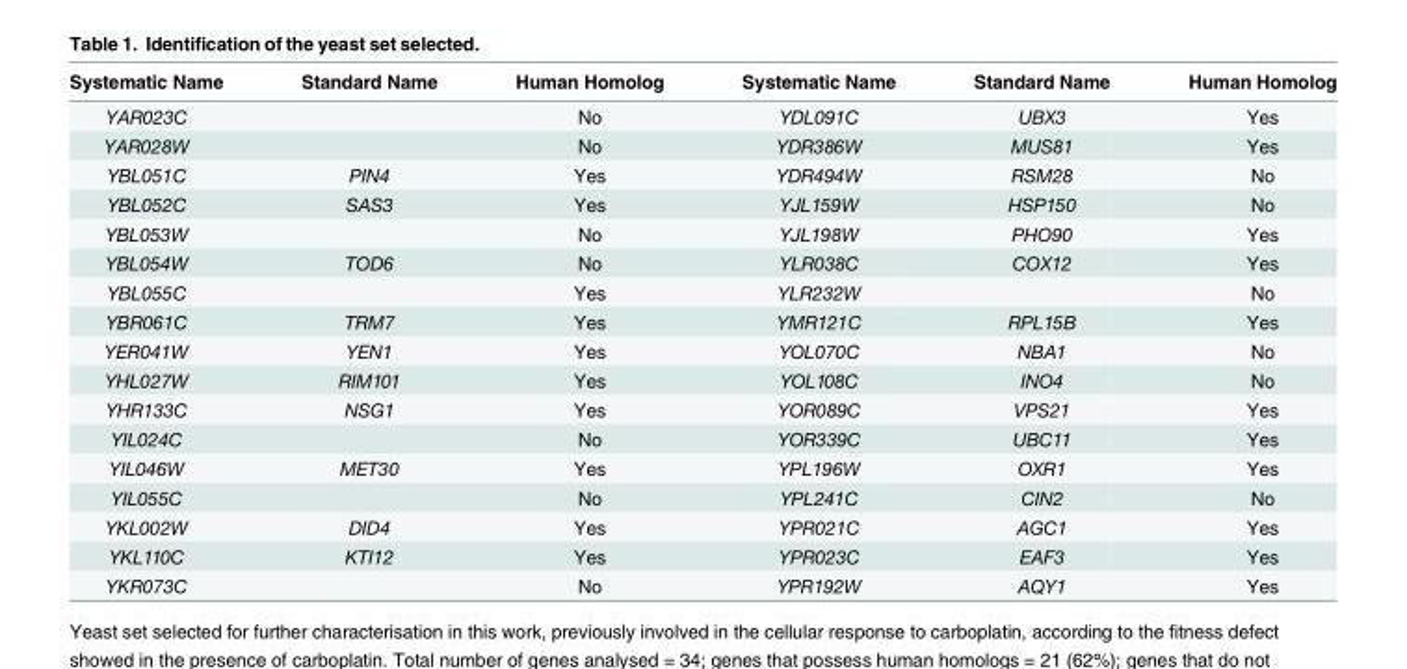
<table><thead><tr><td>Systematic Name</td><td>Standard Name</td><td>Human Homolog</td><td>Systematic Name</td><td>Standard Name</td><td>Human Homolog</td></tr></thead><tbody><tr><td>YAR023C</td><td></td><td>No</td><td>YDL091C</td><td>UBX3</td><td>Yes</td></tr><tr><td>YAR028W</td><td></td><td>No</td><td>YDR386W</td><td>MUS81</td><td>Yes</td></tr><tr><td>YBL051C</td><td>PIN4</td><td>Yes</td><td>YDR494W</td><td>RSM28</td><td>No</td></tr><tr><td>YBL052C</td><td>SAS3</td><td>Yes</td><td>YJL159W</td><td>HSP150</td><td>No</td></tr><tr><td>YBL053W</td><td></td><td>No</td><td>YJL198W</td><td>PHO90</td><td>Yes</td></tr><tr><td>YBL054W</td><td>TOD6</td><td>No</td><td>YLR038C</td><td>COX12</td><td>Yes</td></tr><tr><td>YBL055C</td><td></td><td>Yes</td><td>YLR232W</td><td></td><td>No</td></tr><tr><td>YBR061C</td><td>TRM7</td><td>Yes</td><td>YMR121C</td><td>RPL15B</td><td>Yes</td></tr><tr><td>YER041W</td><td>YEN1</td><td>Yes</td><td>YOL070C</td><td>NBA1</td><td>No</td></tr><tr><td>YHL027W</td><td>RIM101</td><td>Yes</td><td>YOL108C</td><td>INO4</td><td>No</td></tr><tr><td>YHR133C</td><td>NSG1</td><td>Yes</td><td>YOR089C</td><td>VPS21</td><td>Yes</td></tr><tr><td>YIL024C</td><td></td><td>No</td><td>YOR339C</td><td>UBC11</td><td>Yes</td></tr><tr><td>YIL046W</td><td>MET30</td><td>Yes</td><td>YPL196W</td><td>OXR1</td><td>Yes</td></tr><tr><td>YIL055C</td><td></td><td>No</td><td>YPL241C</td><td>CIN2</td><td>No</td></tr><tr><td>YKL002W</td><td>DID4</td><td>Yes</td><td>YPR021C</td><td>AGC1</td><td>Yes</td></tr><tr><td>YKL110C</td><td>KTI12</td><td>Yes</td><td>YPR023C</td><td>EAF3</td><td>Yes</td></tr><tr><td>YKR073C</td><td></td><td>No</td><td>YPR192W</td><td>AQY1</td><td>Yes</td></tr></tbody></table>